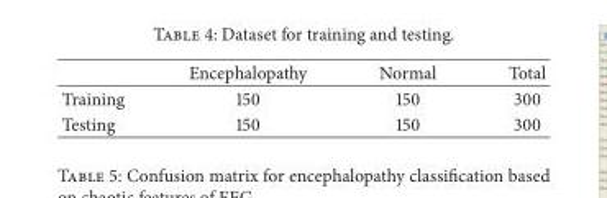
<table><thead><tr><td></td><td>Encephalopathy</td><td>Normal</td><td>Total</td></tr></thead><tbody><tr><td>Training</td><td>150</td><td>150</td><td>300</td></tr><tr><td>Testing</td><td>150</td><td>150</td><td>300</td></tr></tbody></table>